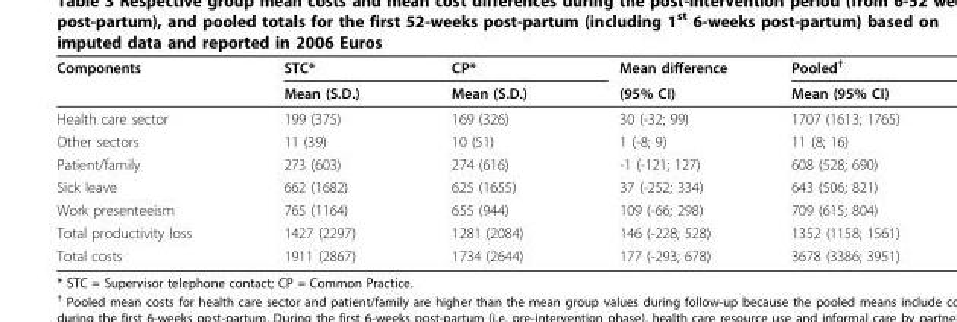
<table><thead><tr><td rowspan="2">Components</td><td rowspan="2">STC* Mean (S.D.)</td><td rowspan="2">CP* Mean (S.D.)</td><td rowspan="2">Mean difference (95% CI)</td><td rowspan="2">Pooled<sup>†</sup> Mean (95% CI)</td></tr><tr></tr></thead><tbody><tr><td>Health care sector</td><td>199 (375)</td><td>169 (326)</td><td>30 (-32; 99)</td><td>1707 (1613; 1765)</td></tr><tr><td>Other sectors</td><td>11 (39)</td><td>10 (51)</td><td>1 (-8; 9)</td><td>11 (8; 16)</td></tr><tr><td>Patient/family</td><td>273 (603)</td><td>274 (616)</td><td>-1 (-121; 127)</td><td>608 (528; 690)</td></tr><tr><td>Sick leave</td><td>662 (1682)</td><td>625 (1655)</td><td>37 (-252; 334)</td><td>643 (506; 821)</td></tr><tr><td>Work presenteeism</td><td>765 (1164)</td><td>655 (944)</td><td>109 (-66; 298)</td><td>709 (615; 804)</td></tr><tr><td>Total productivity loss</td><td>1427 (2297)</td><td>1281 (2084)</td><td>146 (-228; 528)</td><td>1352 (1158; 1561)</td></tr><tr><td>Total costs</td><td>1911 (2867)</td><td>1734 (2644)</td><td>177 (-293; 678)</td><td>3678 (3386; 3951)</td></tr></tbody></table>